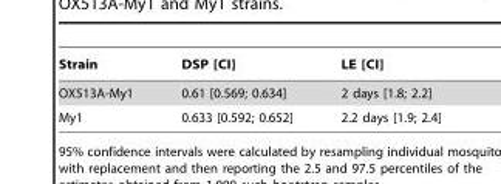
<table><thead><tr><td>Strain</td><td>DSP [CI]</td><td>LE [CI]</td></tr></thead><tbody><tr><td>OX513A-My1</td><td>0.61 [0.569; 0.634]</td><td>2 days [1.8; 2.2]</td></tr><tr><td>My1</td><td>0.633 [0.592; 0.652]</td><td>2.2 days [1.9; 2.4]</td></tr></tbody></table>